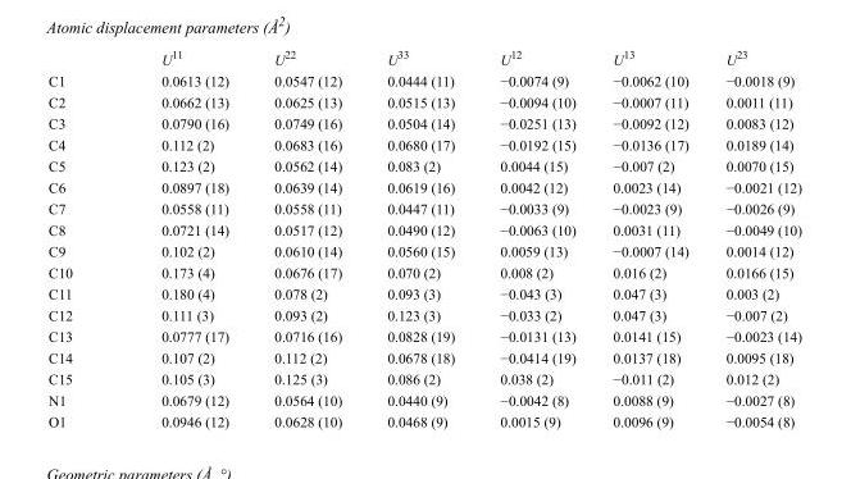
<table><thead><tr><td></td><td>U<sup>11</sup></td><td>U<sup>22</sup></td><td>U<sup>33</sup></td><td>U<sup>12</sup></td><td>U<sup>13</sup></td><td>U<sup>23</sup></td></tr></thead><tbody><tr><td>C1</td><td>0.0613 (12)</td><td>0.0547 (12)</td><td>0.0444 (11)</td><td>−0.0074 (9)</td><td>−0.0062 (10)</td><td>−0.0018 (9)</td></tr><tr><td>C2</td><td>0.0662 (13)</td><td>0.0625 (13)</td><td>0.0515 (13)</td><td>−0.0094 (10)</td><td>−0.0007 (11)</td><td>0.0011 (11)</td></tr><tr><td>C3</td><td>0.0790 (16)</td><td>0.0749 (16)</td><td>0.0504 (14)</td><td>−0.0251 (13)</td><td>−0.0092 (12)</td><td>0.0083 (12)</td></tr><tr><td>C4</td><td>0.112 (2)</td><td>0.0683 (16)</td><td>0.0680 (17)</td><td>−0.0192 (15)</td><td>−0.0136 (17)</td><td>0.0189 (14)</td></tr><tr><td>C5</td><td>0.123 (2)</td><td>0.0562 (14)</td><td>0.083 (2)</td><td>0.0044 (15)</td><td>−0.007 (2)</td><td>0.0070 (15)</td></tr><tr><td>C6</td><td>0.0897 (18)</td><td>0.0639 (14)</td><td>0.0619 (16)</td><td>0.0042 (12)</td><td>0.0023 (14)</td><td>−0.0021 (12)</td></tr><tr><td>C7</td><td>0.0558 (11)</td><td>0.0558 (11)</td><td>0.0447 (11)</td><td>−0.0033 (9)</td><td>−0.0023 (9)</td><td>−0.0026 (9)</td></tr><tr><td>C8</td><td>0.0721 (14)</td><td>0.0517 (12)</td><td>0.0490 (12)</td><td>−0.0063 (10)</td><td>0.0031 (11)</td><td>−0.0049 (10)</td></tr><tr><td>C9</td><td>0.102 (2)</td><td>0.0610 (14)</td><td>0.0560 (15)</td><td>0.0059 (13)</td><td>−0.0007 (14)</td><td>0.0014 (12)</td></tr><tr><td>C10</td><td>0.173 (4)</td><td>0.0676 (17)</td><td>0.070 (2)</td><td>0.008 (2)</td><td>0.016 (2)</td><td>0.0166 (15)</td></tr><tr><td>C11</td><td>0.180 (4)</td><td>0.078 (2)</td><td>0.093 (3)</td><td>−0.043 (3)</td><td>0.047 (3)</td><td>0.003 (2)</td></tr><tr><td>C12</td><td>0.111 (3)</td><td>0.093 (2)</td><td>0.123 (3)</td><td>−0.033 (2)</td><td>0.047 (3)</td><td>−0.007 (2)</td></tr><tr><td>C13</td><td>0.0777 (17)</td><td>0.0716 (16)</td><td>0.0828 (19)</td><td>−0.0131 (13)</td><td>0.0141 (15)</td><td>−0.0023 (14)</td></tr><tr><td>C14</td><td>0.107 (2)</td><td>0.112 (2)</td><td>0.0678 (18)</td><td>−0.0414 (19)</td><td>0.0137 (18)</td><td>0.0095 (18)</td></tr><tr><td>C15</td><td>0.105 (3)</td><td>0.125 (3)</td><td>0.086 (2)</td><td>0.038 (2)</td><td>−0.011 (2)</td><td>0.012 (2)</td></tr><tr><td>N1</td><td>0.0679 (12)</td><td>0.0564 (10)</td><td>0.0440 (9)</td><td>−0.0042 (8)</td><td>0.0088 (9)</td><td>−0.0027 (8)</td></tr><tr><td>O1</td><td>0.0946 (12)</td><td>0.0628 (10)</td><td>0.0468 (9)</td><td>0.0015 (9)</td><td>0.0096 (9)</td><td>−0.0054 (8)</td></tr></tbody></table>